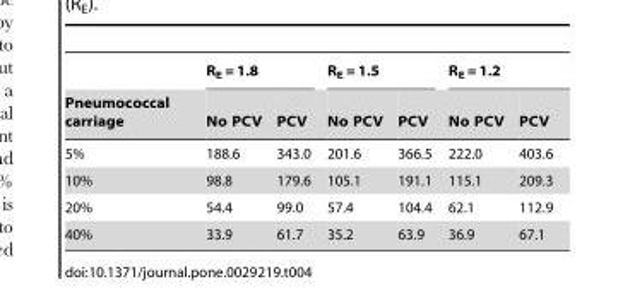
<table><thead><tr><td rowspan="2">Pneumococcal carriage</td><td colspan="2">R<sub>E</sub> = 1.8</td><td colspan="2">R<sub>E</sub> = 1.5</td><td colspan="2">R<sub>E</sub> = 1.2</td></tr><tr><td>No PCV</td><td>PCV</td><td>No PCV</td><td>PCV</td><td>No PCV</td><td>PCV</td></tr></thead><tbody><tr><td>5%</td><td>188.6</td><td>343.0</td><td>201.6</td><td>366.5</td><td>222.0</td><td>403.6</td></tr><tr><td>10%</td><td>98.8</td><td>179.6</td><td>105.1</td><td>191.1</td><td>115.1</td><td>209.3</td></tr><tr><td>20%</td><td>54.4</td><td>99.0</td><td>57.4</td><td>104.4</td><td>62.1</td><td>112.9</td></tr><tr><td>40%</td><td>33.9</td><td>61.7</td><td>35.2</td><td>63.9</td><td>36.9</td><td>67.1</td></tr></tbody></table>